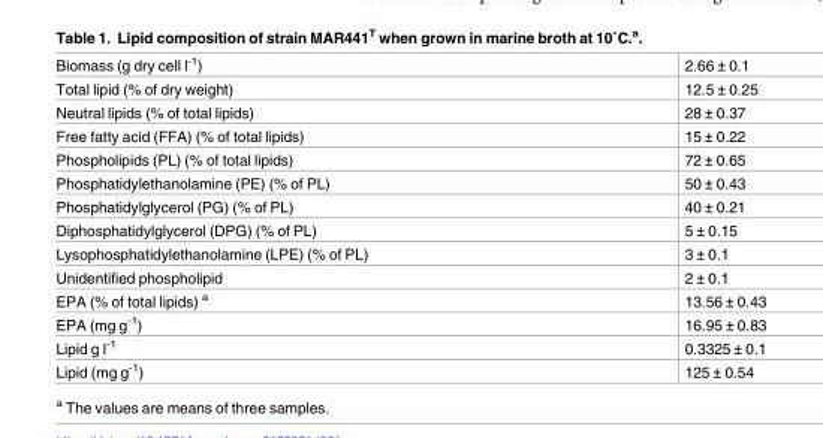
<table><tbody><tr><td>Biomass (g dry cell l<sup>-1</sup>)</td><td>2.66 ± 0.1</td></tr><tr><td>Total lipid (% of dry weight)</td><td>12.5 ± 0.25</td></tr><tr><td>Neutral lipids (% of total lipids)</td><td>28 ± 0.37</td></tr><tr><td>Free fatty acid (FFA) (% of total lipids)</td><td>15 ± 0.22</td></tr><tr><td>Phospholipids (PL) (% of total lipids)</td><td>72 ± 0.65</td></tr><tr><td>Phosphatidylethanolamine (PE) (% of PL)</td><td>50 ± 0.43</td></tr><tr><td>Phosphatidylglycerol (PG) (% of PL)</td><td>40 ± 0.21</td></tr><tr><td>Diphosphatidylglycerol (DPG) (% of PL)</td><td>5 ± 0.15</td></tr><tr><td>Lysophosphatidylethanolamine (LPE) (% of PL)</td><td>3 ± 0.1</td></tr><tr><td>Unidentified phospholipid</td><td>2 ± 0.1</td></tr><tr><td>EPA (% of total lipids) <sup>a</sup></td><td>13.56 ± 0.43</td></tr><tr><td>EPA (mg g<sup>-1</sup>)</td><td>16.95 ± 0.83</td></tr><tr><td>Lipid g l<sup>-1</sup></td><td>0.3325 ± 0.1</td></tr><tr><td>Lipid (mg g<sup>-1</sup>)</td><td>125 ± 0.54</td></tr></tbody></table>